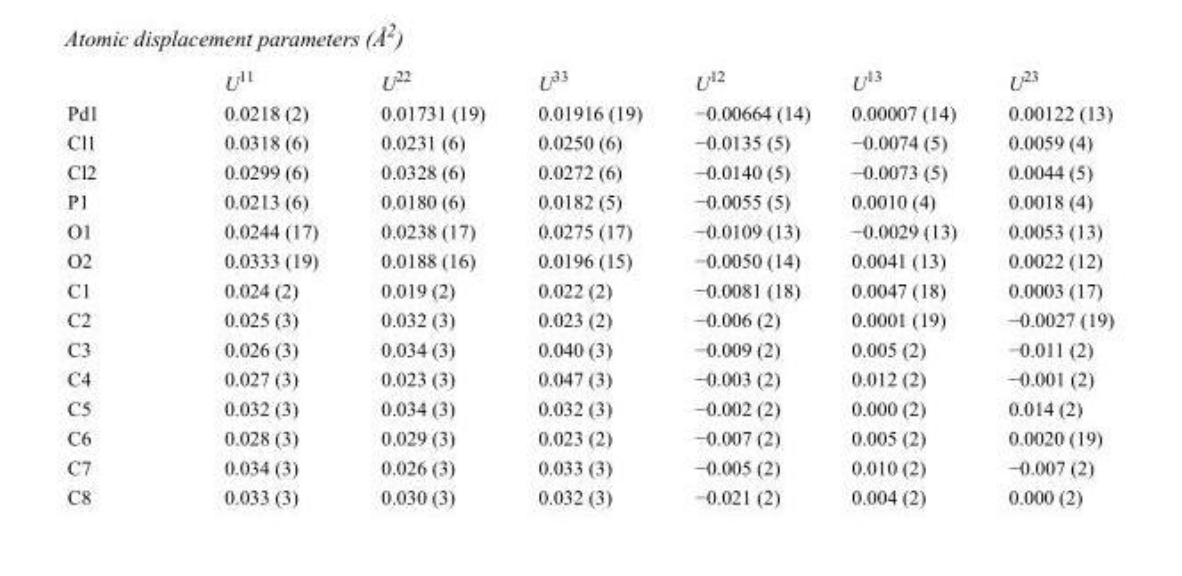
<table><thead><tr><td></td><td>U<sup>11</sup></td><td>U<sup>22</sup></td><td>U<sup>33</sup></td><td>U<sup>12</sup></td><td>U<sup>13</sup></td><td>U<sup>23</sup></td></tr></thead><tbody><tr><td>Pd1</td><td>0.0218 (2)</td><td>0.01731 (19)</td><td>0.01916 (19)</td><td>−0.00664 (14)</td><td>0.00007 (14)</td><td>0.00122 (13)</td></tr><tr><td>Cl1</td><td>0.0318 (6)</td><td>0.0231 (6)</td><td>0.0250 (6)</td><td>−0.0135 (5)</td><td>−0.0074 (5)</td><td>0.0059 (4)</td></tr><tr><td>Cl2</td><td>0.0299 (6)</td><td>0.0328 (6)</td><td>0.0272 (6)</td><td>−0.0140 (5)</td><td>−0.0073 (5)</td><td>0.0044 (5)</td></tr><tr><td>P1</td><td>0.0213 (6)</td><td>0.0180 (6)</td><td>0.0182 (5)</td><td>−0.0055 (5)</td><td>0.0010 (4)</td><td>0.0018 (4)</td></tr><tr><td>O1</td><td>0.0244 (17)</td><td>0.0238 (17)</td><td>0.0275 (17)</td><td>−0.0109 (13)</td><td>−0.0029 (13)</td><td>0.0053 (13)</td></tr><tr><td>O2</td><td>0.0333 (19)</td><td>0.0188 (16)</td><td>0.0196 (15)</td><td>−0.0050 (14)</td><td>0.0041 (13)</td><td>0.0022 (12)</td></tr><tr><td>C1</td><td>0.024 (2)</td><td>0.019 (2)</td><td>0.022 (2)</td><td>−0.0081 (18)</td><td>0.0047 (18)</td><td>0.0003 (17)</td></tr><tr><td>C2</td><td>0.025 (3)</td><td>0.032 (3)</td><td>0.023 (2)</td><td>−0.006 (2)</td><td>0.0001 (19)</td><td>−0.0027 (19)</td></tr><tr><td>C3</td><td>0.026 (3)</td><td>0.034 (3)</td><td>0.040 (3)</td><td>−0.009 (2)</td><td>0.005 (2)</td><td>−0.011 (2)</td></tr><tr><td>C4</td><td>0.027 (3)</td><td>0.023 (3)</td><td>0.047 (3)</td><td>−0.003 (2)</td><td>0.012 (2)</td><td>−0.001 (2)</td></tr><tr><td>C5</td><td>0.032 (3)</td><td>0.034 (3)</td><td>0.032 (3)</td><td>−0.002 (2)</td><td>0.000 (2)</td><td>0.014 (2)</td></tr><tr><td>C6</td><td>0.028 (3)</td><td>0.029 (3)</td><td>0.023 (2)</td><td>−0.007 (2)</td><td>0.005 (2)</td><td>0.0020 (19)</td></tr><tr><td>C7</td><td>0.034 (3)</td><td>0.026 (3)</td><td>0.033 (3)</td><td>−0.005 (2)</td><td>0.010 (2)</td><td>−0.007 (2)</td></tr><tr><td>C8</td><td>0.033 (3)</td><td>0.030 (3)</td><td>0.032 (3)</td><td>−0.021 (2)</td><td>0.004 (2)</td><td>0.000 (2)</td></tr></tbody></table>